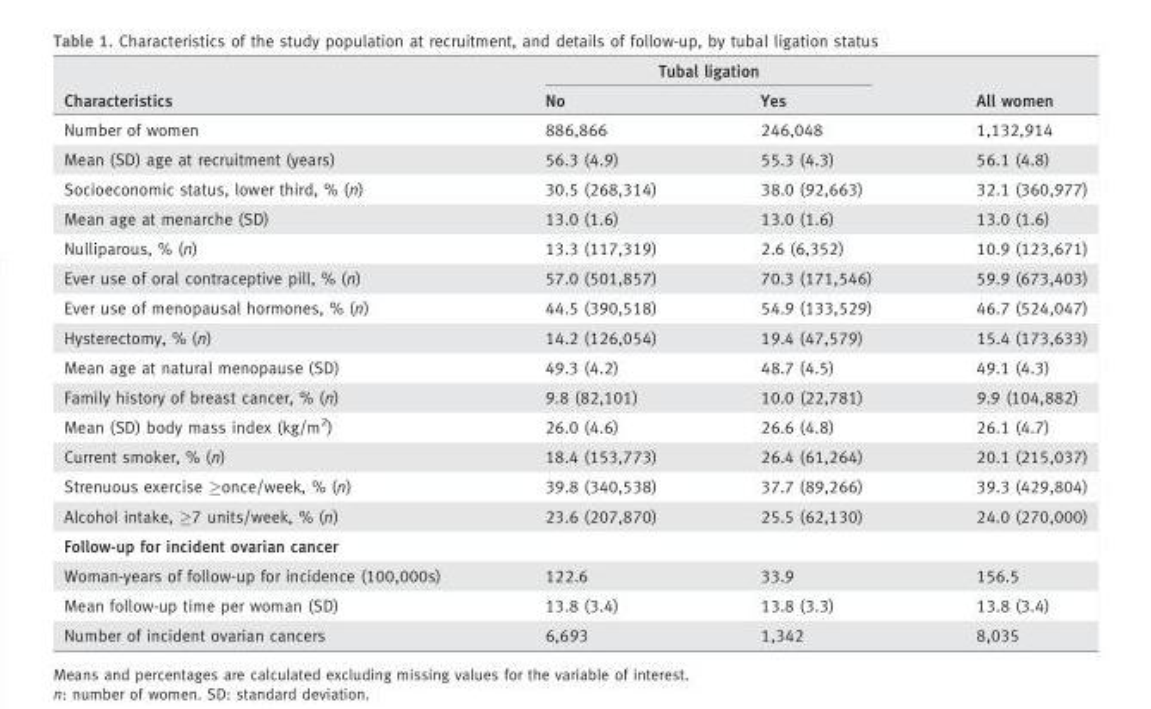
<table><thead><tr><td rowspan="2">Characteristics</td><td colspan="2">Tubal ligation</td><td rowspan="2">All women</td></tr><tr><td>No</td><td>Yes</td></tr></thead><tbody><tr><td>Number of women</td><td>886,866</td><td>246,048</td><td>1,132,914</td></tr><tr><td>Mean (SD) age at recruitment (years)</td><td>56.3 (4.9)</td><td>55.3 (4.3)</td><td>56.1 (4.8)</td></tr><tr><td>Socioeconomic status, lower third, % (n)</td><td>30.5 (268,314)</td><td>38.0 (92,663)</td><td>32.1 (360,977)</td></tr><tr><td>Mean age at menarche (SD)</td><td>13.0 (1.6)</td><td>13.0 (1.6)</td><td>13.0 (1.6)</td></tr><tr><td>Nulliparous, % (n)</td><td>13.3 (117,319)</td><td>2.6 (6,352)</td><td>10.9 (123,671)</td></tr><tr><td>Ever use of oral contraceptive pill, % (n)</td><td>57.0 (501,857)</td><td>70.3 (171,546)</td><td>59.9 (673,403)</td></tr><tr><td>Ever use of menopausal hormones, % (n)</td><td>44.5 (390,518)</td><td>54.9 (133,529)</td><td>46.7 (524,047)</td></tr><tr><td>Hysterectomy, % (n)</td><td>14.2 (126,054)</td><td>19.4 (47,579)</td><td>15.4 (173,633)</td></tr><tr><td>Mean age at natural menopause (SD)</td><td>49.3 (4.2)</td><td>48.7 (4.5)</td><td>49.1 (4.3)</td></tr><tr><td>Family history of breast cancer, % (n)</td><td>9.8 (82,101)</td><td>10.0 (22,781)</td><td>9.9 (104,882)</td></tr><tr><td>Mean (SD) body mass index (kg/m<sup>2</sup>)</td><td>26.0 (4.6)</td><td>26.6 (4.8)</td><td>26.1 (4.7)</td></tr><tr><td>Current smoker, % (n)</td><td>18.4 (153,773)</td><td>26.4 (61,264)</td><td>20.1 (215,037)</td></tr><tr><td>Strenuous exercise ≥once/week, % (n)</td><td>39.8 (340,538)</td><td>37.7 (89,266)</td><td>39.3 (429,804)</td></tr><tr><td>Alcohol intake, ≥7 units/week, % (n)</td><td>23.6 (207,870)</td><td>25.5 (62,130)</td><td>24.0 (270,000)</td></tr><tr><td colspan="4">Follow-up for incident ovarian cancer</td></tr><tr><td>Woman-years of follow-up for incidence (100,000s)</td><td>122.6</td><td>33.9</td><td>156.5</td></tr><tr><td>Mean follow-up time per woman (SD)</td><td>13.8 (3.4)</td><td>13.8 (3.3)</td><td>13.8 (3.4)</td></tr><tr><td>Number of incident ovarian cancers</td><td>6,693</td><td>1,342</td><td>8,035</td></tr></tbody></table>